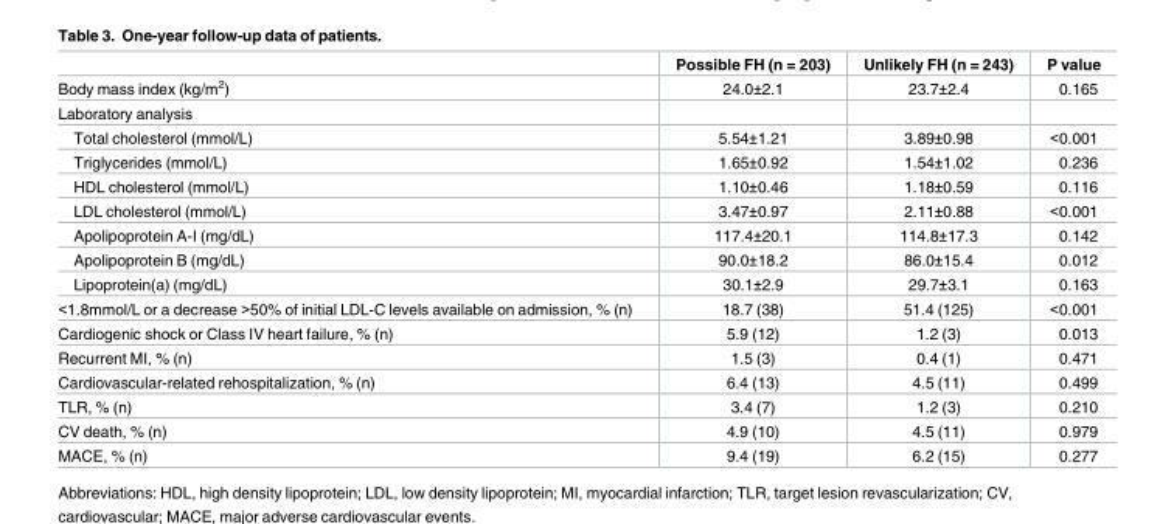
<table><thead><tr><td></td><td>Possible FH (n = 203)</td><td>Unlikely FH (n = 243)</td><td>P value</td></tr></thead><tbody><tr><td>Body mass index (kg/m<sup>2</sup>)</td><td>24.0±2.1</td><td>23.7±2.4</td><td>0.165</td></tr><tr><td colspan="4">Laboratory analysis</td></tr><tr><td>Total cholesterol (mmol/L)</td><td>5.54±1.21</td><td>3.89±0.98</td><td>&lt;0.001</td></tr><tr><td>Triglycerides (mmol/L)</td><td>1.65±0.92</td><td>1.54±1.02</td><td>0.236</td></tr><tr><td>HDL cholesterol (mmol/L)</td><td>1.10±0.46</td><td>1.18±0.59</td><td>0.116</td></tr><tr><td>LDL cholesterol (mmol/L)</td><td>3.47±0.97</td><td>2.11±0.88</td><td>&lt;0.001</td></tr><tr><td>Apolipoprotein A-I (mg/dL)</td><td>117.4±20.1</td><td>114.8±17.3</td><td>0.142</td></tr><tr><td>Apolipoprotein B (mg/dL)</td><td>90.0±18.2</td><td>86.0±15.4</td><td>0.012</td></tr><tr><td>Lipoprotein(a) (mg/dL)</td><td>30.1±2.9</td><td>29.7±3.1</td><td>0.163</td></tr><tr><td>&lt;1.8mmol/L or a decrease &gt;50% of initial LDL-C levels available on admission, % (n)</td><td>18.7 (38)</td><td>51.4 (125)</td><td>&lt;0.001</td></tr><tr><td>Cardiogenic shock or Class IV heart failure, % (n)</td><td>5.9 (12)</td><td>1.2 (3)</td><td>0.013</td></tr><tr><td>Recurrent MI, % (n)</td><td>1.5 (3)</td><td>0.4 (1)</td><td>0.471</td></tr><tr><td>Cardiovascular-related rehospitalization, % (n)</td><td>6.4 (13)</td><td>4.5 (11)</td><td>0.499</td></tr><tr><td>TLR, % (n)</td><td>3.4 (7)</td><td>1.2 (3)</td><td>0.210</td></tr><tr><td>CV death, % (n)</td><td>4.9 (10)</td><td>4.5 (11)</td><td>0.979</td></tr><tr><td>MACE, % (n)</td><td>9.4 (19)</td><td>6.2 (15)</td><td>0.277</td></tr></tbody></table>